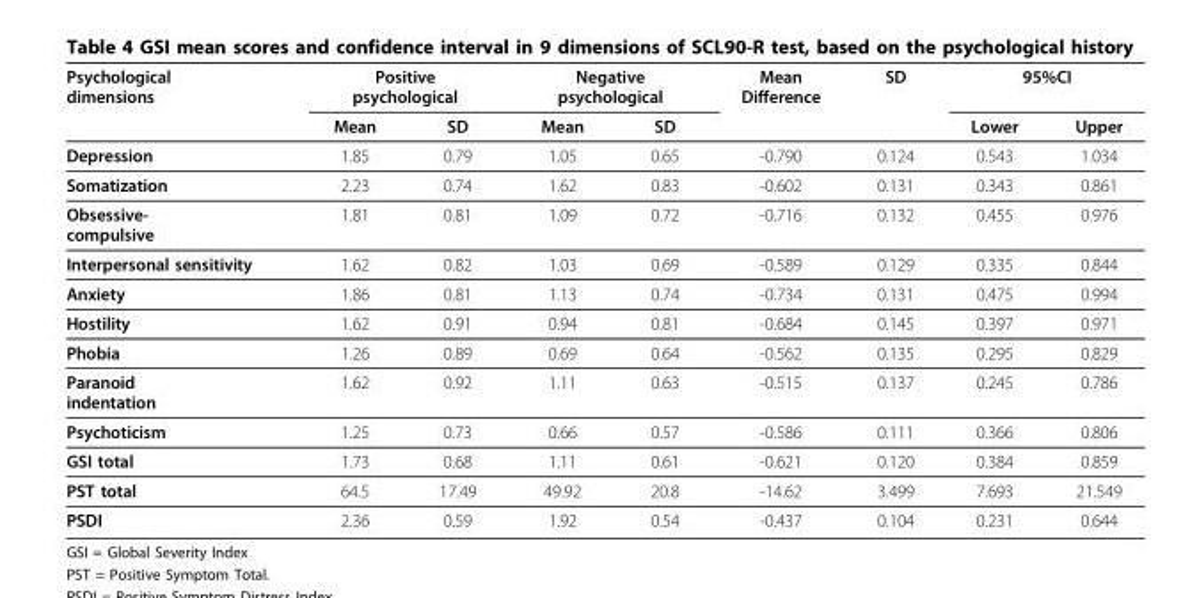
<table><thead><tr><td rowspan="2">Psychological dimensions</td><td colspan="2">Positive psychological</td><td colspan="2">Negative psychological</td><td rowspan="2">Mean Difference</td><td rowspan="2">SD</td><td colspan="2">95%CI</td></tr><tr><td>Mean</td><td>SD</td><td>Mean</td><td>SD</td><td>Lower</td><td>Upper</td></tr></thead><tbody><tr><td>Depression</td><td>1.85</td><td>0.79</td><td>1.05</td><td>0.65</td><td>-0.790</td><td>0.124</td><td>0.543</td><td>1.034</td></tr><tr><td>Somatization</td><td>2.23</td><td>0.74</td><td>1.62</td><td>0.83</td><td>-0.602</td><td>0.131</td><td>0.343</td><td>0.861</td></tr><tr><td>Obsessive- compulsive</td><td>1.81</td><td>0.81</td><td>1.09</td><td>0.72</td><td>-0.716</td><td>0.132</td><td>0.455</td><td>0.976</td></tr><tr><td>Interpersonal sensitivity</td><td>1.62</td><td>0.82</td><td>1.03</td><td>0.69</td><td>-0.589</td><td>0.129</td><td>0.335</td><td>0.844</td></tr><tr><td>Anxiety</td><td>1.86</td><td>0.81</td><td>1.13</td><td>0.74</td><td>-0.734</td><td>0.131</td><td>0.475</td><td>0.994</td></tr><tr><td>Hostility</td><td>1.62</td><td>0.91</td><td>0.94</td><td>0.81</td><td>-0.684</td><td>0.145</td><td>0.397</td><td>0.971</td></tr><tr><td>Phobia</td><td>1.26</td><td>0.89</td><td>0.69</td><td>0.64</td><td>-0.562</td><td>0.135</td><td>0.295</td><td>0.829</td></tr><tr><td>Paranoid indentation</td><td>1.62</td><td>0.92</td><td>1.11</td><td>0.63</td><td>-0.515</td><td>0.137</td><td>0.245</td><td>0.786</td></tr><tr><td>Psychoticism</td><td>1.25</td><td>0.73</td><td>0.66</td><td>0.57</td><td>-0.586</td><td>0.111</td><td>0.366</td><td>0.806</td></tr><tr><td>GSI total</td><td>1.73</td><td>0.68</td><td>1.11</td><td>0.61</td><td>-0.621</td><td>0.120</td><td>0.384</td><td>0.859</td></tr><tr><td>PST total</td><td>64.5</td><td>17.49</td><td>49.92</td><td>20.8</td><td>-14.62</td><td>3.499</td><td>7.693</td><td>21.549</td></tr><tr><td>PSDI</td><td>2.36</td><td>0.59</td><td>1.92</td><td>0.54</td><td>-0.437</td><td>0.104</td><td>0.231</td><td>0.644</td></tr></tbody></table>